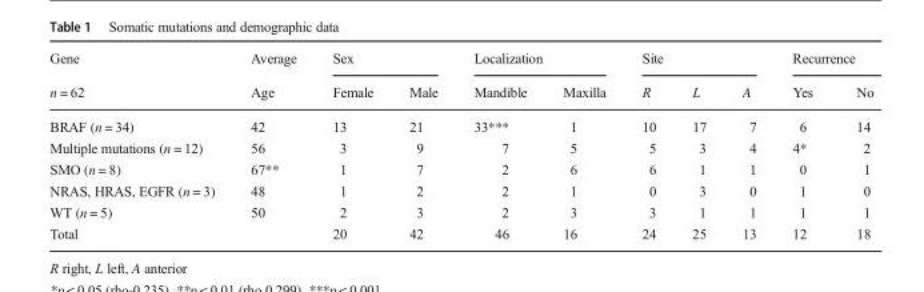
<table><thead><tr><td rowspan="2">Gene n = 62</td><td rowspan="2">Average Age</td><td colspan="2">Sex</td><td colspan="2">Localization</td><td colspan="3">Site</td><td colspan="2">Recurrence</td></tr><tr><td>Female</td><td>Male</td><td>Mandible</td><td>Maxilla</td><td>R</td><td>L</td><td>A</td><td>Yes</td><td>No</td></tr></thead><tbody><tr><td>BRAF (n = 34)</td><td>42</td><td>13</td><td>21</td><td>33***</td><td>1</td><td>10</td><td>17</td><td>7</td><td>6</td><td>14</td></tr><tr><td>Multiple mutations (n = 12)</td><td>56</td><td>3</td><td>9</td><td>7</td><td>5</td><td>5</td><td>3</td><td>4</td><td>4*</td><td>2</td></tr><tr><td>SMO (n = 8)</td><td>67**</td><td>1</td><td>7</td><td>2</td><td>6</td><td>6</td><td>1</td><td>1</td><td>0</td><td>1</td></tr><tr><td>NRAS, HRAS, EGFR (n = 3)</td><td>48</td><td>1</td><td>2</td><td>2</td><td>1</td><td>0</td><td>3</td><td>0</td><td>1</td><td>0</td></tr><tr><td>WT (n = 5)</td><td>50</td><td>2</td><td>3</td><td>2</td><td>3</td><td>3</td><td>1</td><td>1</td><td>1</td><td>1</td></tr><tr><td>Total</td><td></td><td>20</td><td>42</td><td>46</td><td>16</td><td>24</td><td>25</td><td>13</td><td>12</td><td>18</td></tr></tbody></table>